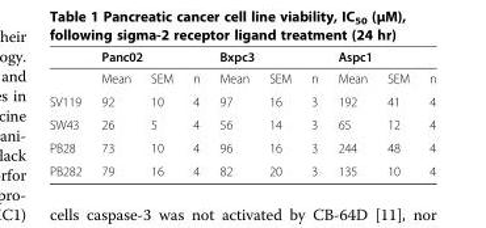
<table><thead><tr><td rowspan="2"></td><td colspan="3">Panc02</td><td colspan="3">Bxpc3</td><td colspan="3">Aspc1</td></tr><tr><td>Mean</td><td>SEM</td><td>n</td><td>Mean</td><td>SEM</td><td>n</td><td>Mean</td><td>SEM</td><td>n</td></tr></thead><tbody><tr><td>SV119</td><td>92</td><td>10</td><td>4</td><td>97</td><td>16</td><td>3</td><td>192</td><td>41</td><td>4</td></tr><tr><td>SW43</td><td>26</td><td>5</td><td>4</td><td>56</td><td>14</td><td>3</td><td>65</td><td>12</td><td>4</td></tr><tr><td>PB28</td><td>73</td><td>10</td><td>4</td><td>96</td><td>16</td><td>3</td><td>244</td><td>48</td><td>4</td></tr><tr><td>PB282</td><td>79</td><td>16</td><td>4</td><td>82</td><td>20</td><td>3</td><td>135</td><td>10</td><td>4</td></tr></tbody></table>